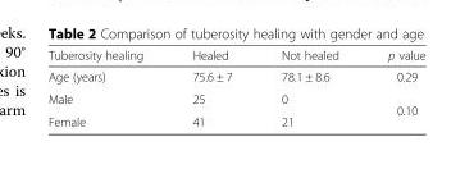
<table><thead><tr><td>Tuberosity healing</td><td>Healed</td><td>Not healed</td><td>p value</td></tr></thead><tbody><tr><td>Age (years)</td><td>75.6 ± 7</td><td>78.1 ± 8.6</td><td>0.29</td></tr><tr><td>Male</td><td>25</td><td>0</td><td rowspan="2">0.10</td></tr><tr><td>Female</td><td>41</td><td>21</td></tr></tbody></table>